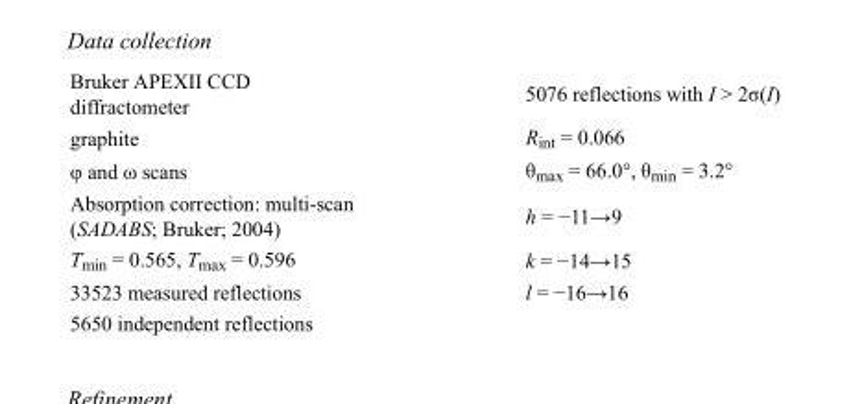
<table><tbody><tr><td>Bruker APEXII CCD diffractometer</td><td>5076 reflections with I &gt; 2σ(I)</td></tr><tr><td>graphite</td><td>R<sub>int</sub> = 0.066</td></tr><tr><td>φ and ω scans</td><td>θ<sub>max</sub> = 66.0°, θ<sub>min</sub> = 3.2°</td></tr><tr><td>Absorption correction: multi-scan (SADABS; Bruker; 2004)</td><td>h = −11→9</td></tr><tr><td>T<sub>min</sub> = 0.565, T<sub>max</sub> = 0.596</td><td>k = −14→15</td></tr><tr><td>33523 measured reflections</td><td>l = −16→16</td></tr><tr><td>5650 independent reflections</td><td></td></tr></tbody></table>